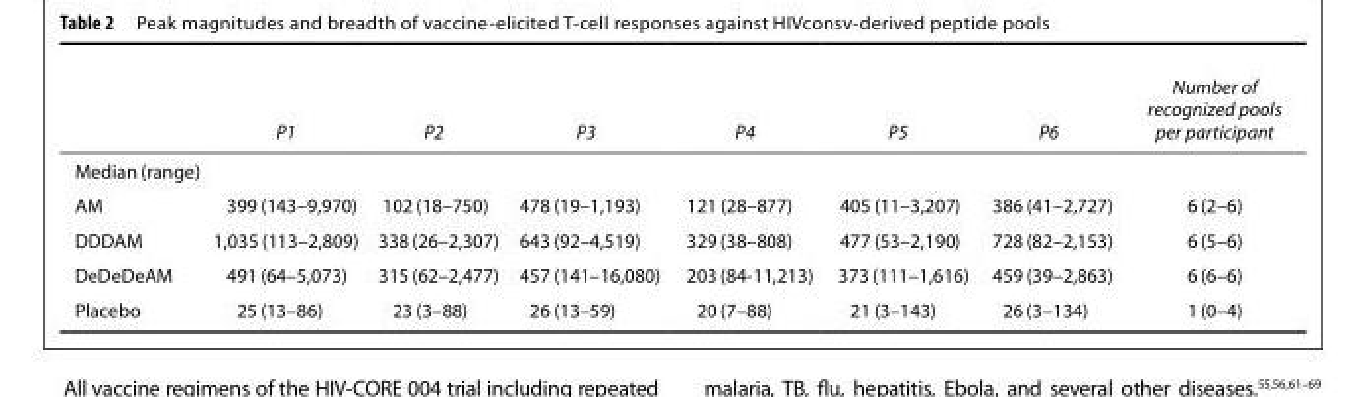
<table><thead><tr><td></td><td>P1</td><td>P2</td><td>P3</td><td>P4</td><td>P5</td><td>P6</td><td>Number of recognized pools per participant</td></tr></thead><tbody><tr><td colspan="8">Median (range)</td></tr><tr><td>AM</td><td>399 (143–9,970)</td><td>102 (18–750)</td><td>478 (19–1,193)</td><td>121 (28–877)</td><td>405 (11–3,207)</td><td>386 (41–2,727)</td><td>6 (2–6)</td></tr><tr><td>DDDAM</td><td>1,035 (113–2,809)</td><td>338 (26–2,307)</td><td>643 (92–4,519)</td><td>329 (38–808)</td><td>477 (53–2,190)</td><td>728 (82–2,153)</td><td>6 (5–6)</td></tr><tr><td>DeDeDeAM</td><td>491 (64–5,073)</td><td>315 (62–2,477)</td><td>457 (141–16,080)</td><td>203 (84-11,213)</td><td>373 (111–1,616)</td><td>459 (39–2,863)</td><td>6 (6–6)</td></tr><tr><td>Placebo</td><td>25 (13–86)</td><td>23 (3–88)</td><td>26 (13–59)</td><td>20 (7–88)</td><td>21 (3–143)</td><td>26 (3–134)</td><td>1 (0–4)</td></tr></tbody></table>